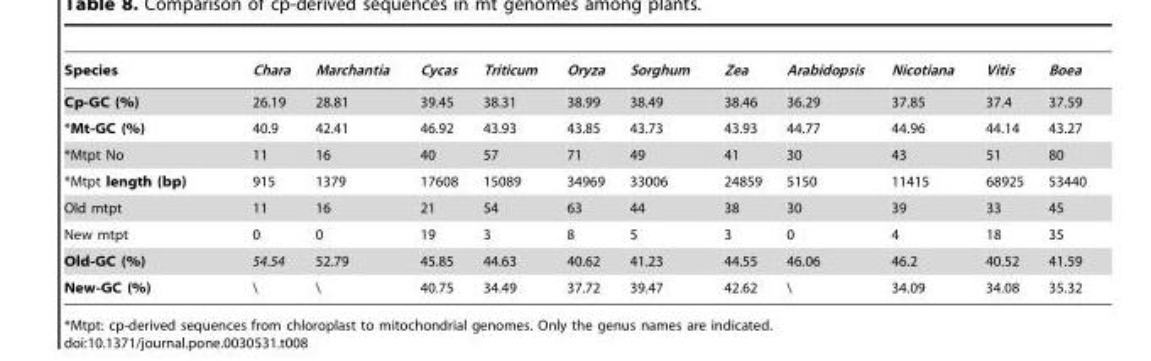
<table><thead><tr><td>Species</td><td>Chara</td><td>Marchantia</td><td>Cycas</td><td>Triticum</td><td>Oryza</td><td>Sorghum</td><td>Zea</td><td>Arabidopsis</td><td>Nicotiana</td><td>Vitis</td><td>Boea</td></tr></thead><tbody><tr><td>Cp-GC (%)</td><td>26.19</td><td>28.81</td><td>39.45</td><td>38.31</td><td>38.99</td><td>38.49</td><td>38.46</td><td>36.29</td><td>37.85</td><td>37.4</td><td>37.59</td></tr><tr><td>*Mt-GC (%)</td><td>40.9</td><td>42.41</td><td>46.92</td><td>43.93</td><td>43.85</td><td>43.73</td><td>43.93</td><td>44.77</td><td>44.96</td><td>44.14</td><td>43.27</td></tr><tr><td>*Mtpt No</td><td>11</td><td>16</td><td>40</td><td>57</td><td>71</td><td>49</td><td>41</td><td>30</td><td>43</td><td>51</td><td>80</td></tr><tr><td>*Mtpt length (bp)</td><td>915</td><td>1379</td><td>17608</td><td>15089</td><td>34969</td><td>33006</td><td>24859</td><td>5150</td><td>11415</td><td>68925</td><td>53440</td></tr><tr><td>Old mtpt</td><td>11</td><td>16</td><td>21</td><td>54</td><td>63</td><td>44</td><td>38</td><td>30</td><td>39</td><td>33</td><td>45</td></tr><tr><td>New mtpt</td><td>0</td><td>0</td><td>19</td><td>3</td><td>8</td><td>5</td><td>3</td><td>0</td><td>4</td><td>18</td><td>35</td></tr><tr><td>Old-GC (%)</td><td>54.54</td><td>52.79</td><td>45.85</td><td>44.63</td><td>40.62</td><td>41.23</td><td>44.55</td><td>46.06</td><td>46.2</td><td>40.52</td><td>41.59</td></tr><tr><td>New-GC (%)</td><td>\</td><td>\</td><td>40.75</td><td>34.49</td><td>37.72</td><td>39.47</td><td>42.62</td><td>\</td><td>34.09</td><td>34.08</td><td>35.32</td></tr></tbody></table>